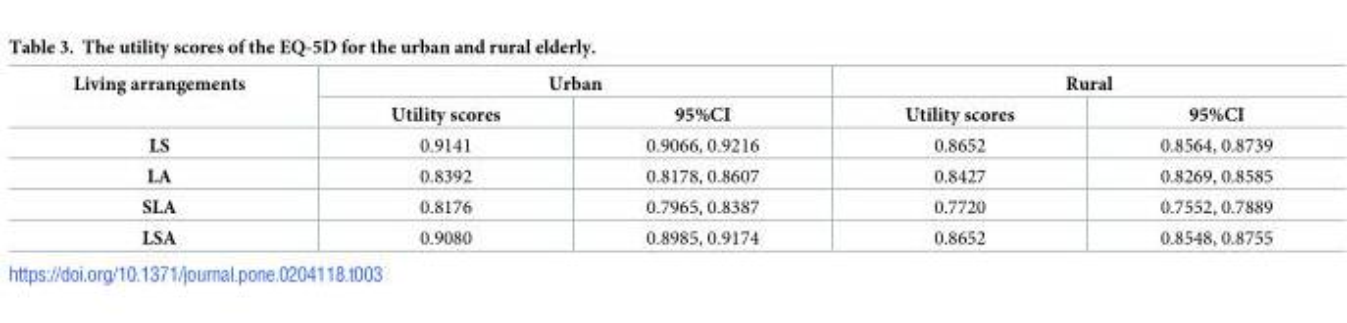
<table><thead><tr><td rowspan="2">Living arrangements</td><td colspan="2">Urban</td><td colspan="2">Rural</td></tr><tr><td>Utility scores</td><td>95%CI</td><td>Utility scores</td><td>95%CI</td></tr></thead><tbody><tr><td>LS</td><td>0.9141</td><td>0.9066, 0.9216</td><td>0.8652</td><td>0.8564, 0.8739</td></tr><tr><td>LA</td><td>0.8392</td><td>0.8178, 0.8607</td><td>0.8427</td><td>0.8269, 0.8585</td></tr><tr><td>SLA</td><td>0.8176</td><td>0.7965, 0.8387</td><td>0.7720</td><td>0.7552, 0.7889</td></tr><tr><td>LSA</td><td>0.9080</td><td>0.8985, 0.9174</td><td>0.8652</td><td>0.8548, 0.8755</td></tr></tbody></table>